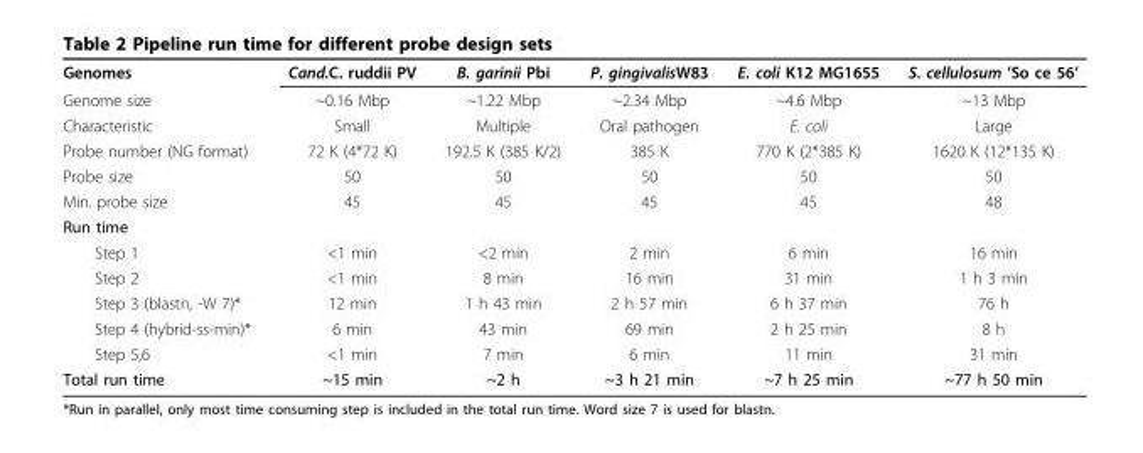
<table><tbody><tr><td>Genomes</td><td>Cand.C. ruddii PV</td><td>B. garinii Pbi</td><td>P. gingivalisW83</td><td>E. coli K12 MG1655</td><td>S. cellulosum ’So ce 56’</td></tr><tr><td>Genome size</td><td>~0.16 Mbp</td><td>~1.22 Mbp</td><td>~2.34 Mbp</td><td>~4.6 Mbp</td><td>~13 Mbp</td></tr><tr><td>Characteristic</td><td>Small</td><td>Multiple</td><td>Oral pathogen</td><td>E. coli</td><td>Large</td></tr><tr><td>Probe number (NG format)</td><td>72 K (4*72 K)</td><td>192.5 K (385 K/2)</td><td>385 K</td><td>770 K (2*385 K)</td><td>1620 K (12*135 K)</td></tr><tr><td>Probe size</td><td>50</td><td>50</td><td>50</td><td>50</td><td>50</td></tr><tr><td>Min. probe size</td><td>45</td><td>45</td><td>45</td><td>45</td><td>48</td></tr><tr><td colspan="6">Run time</td></tr><tr><td>Step 1</td><td>&lt;1 min</td><td>&lt;2 min</td><td>2 min</td><td>6 min</td><td>16 min</td></tr><tr><td>Step 2</td><td>&lt;1 min</td><td>8 min</td><td>16 min</td><td>31 min</td><td>1 h 3 min</td></tr><tr><td>Step 3 (blastn, -W 7)*</td><td>12 min</td><td>1 h 43 min</td><td>2 h 57 min</td><td>6 h 37 min</td><td>76 h</td></tr><tr><td>Step 4 (hybrid-ss-min)*</td><td>6 min</td><td>43 min</td><td>69 min</td><td>2 h 25 min</td><td>8 h</td></tr><tr><td>Step 5,6</td><td>&lt;1 min</td><td>7 min</td><td>6 min</td><td>11 min</td><td>31 min</td></tr><tr><td>Total run time</td><td>~15 min</td><td>~2 h</td><td>~3 h 21 min</td><td>~7 h 25 min</td><td>~77 h 50 min</td></tr></tbody></table>